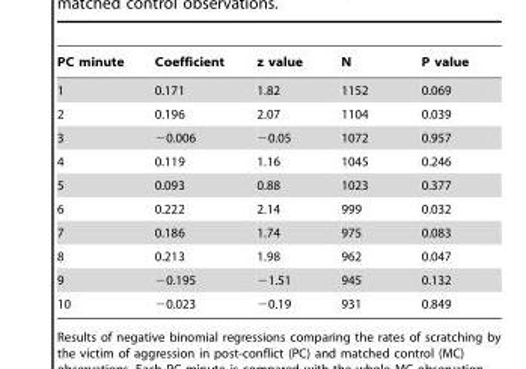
<table><thead><tr><td>PC minute</td><td>Coefficient</td><td>z value</td><td>N</td><td>P value</td></tr></thead><tbody><tr><td>1</td><td>0.171</td><td>1.82</td><td>1152</td><td>0.069</td></tr><tr><td>2</td><td>0.196</td><td>2.07</td><td>1104</td><td>0.039</td></tr><tr><td>3</td><td>−0.006</td><td>−0.05</td><td>1072</td><td>0.957</td></tr><tr><td>4</td><td>0.119</td><td>1.16</td><td>1045</td><td>0.246</td></tr><tr><td>5</td><td>0.093</td><td>0.88</td><td>1023</td><td>0.377</td></tr><tr><td>6</td><td>0.222</td><td>2.14</td><td>999</td><td>0.032</td></tr><tr><td>7</td><td>0.186</td><td>1.74</td><td>975</td><td>0.083</td></tr><tr><td>8</td><td>0.213</td><td>1.98</td><td>962</td><td>0.047</td></tr><tr><td>9</td><td>−0.195</td><td>−1.51</td><td>945</td><td>0.132</td></tr><tr><td>10</td><td>−0.023</td><td>−0.19</td><td>931</td><td>0.849</td></tr></tbody></table>